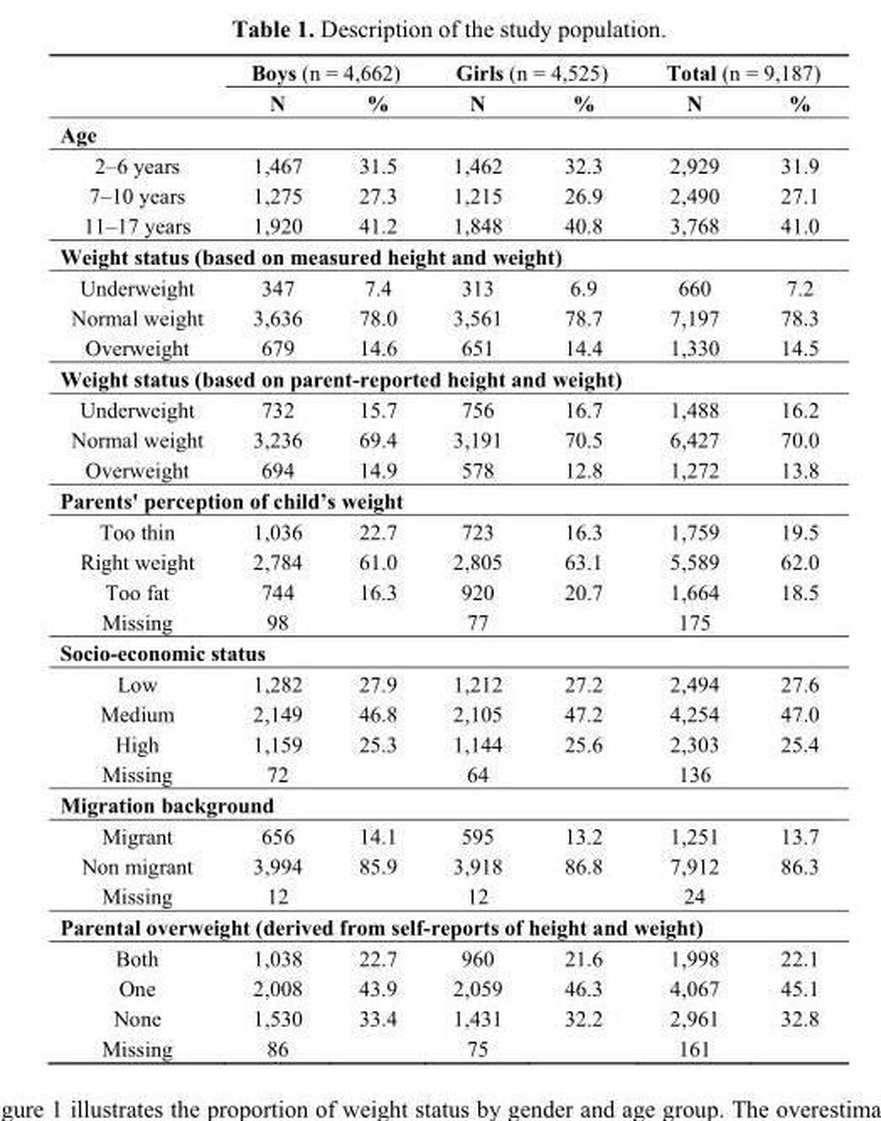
<table><thead><tr><td rowspan="2"></td><td colspan="2">Boys (n = 4,662)</td><td colspan="2">Girls (n = 4,525)</td><td colspan="2">Total (n = 9,187)</td></tr><tr><td>N</td><td>%</td><td>N</td><td>%</td><td>N</td><td>%</td></tr></thead><tbody><tr><td colspan="7">Age</td></tr><tr><td>2–6 years</td><td>1,467</td><td>31.5</td><td>1,462</td><td>32.3</td><td>2,929</td><td>31.9</td></tr><tr><td>7–10 years</td><td>1,275</td><td>27.3</td><td>1,215</td><td>26.9</td><td>2,490</td><td>27.1</td></tr><tr><td>11–17 years</td><td>1,920</td><td>41.2</td><td>1,848</td><td>40.8</td><td>3,768</td><td>41.0</td></tr><tr><td colspan="7">Weight status (based on measured height and weight)</td></tr><tr><td>Underweight</td><td>347</td><td>7.4</td><td>313</td><td>6.9</td><td>660</td><td>7.2</td></tr><tr><td>Normal weight</td><td>3,636</td><td>78.0</td><td>3,561</td><td>78.7</td><td>7,197</td><td>78.3</td></tr><tr><td>Overweight</td><td>679</td><td>14.6</td><td>651</td><td>14.4</td><td>1,330</td><td>14.5</td></tr><tr><td colspan="7">Weight status (based on parent-reported height and weight)</td></tr><tr><td>Underweight</td><td>732</td><td>15.7</td><td>756</td><td>16.7</td><td>1,488</td><td>16.2</td></tr><tr><td>Normal weight</td><td>3,236</td><td>69.4</td><td>3,191</td><td>70.5</td><td>6,427</td><td>70.0</td></tr><tr><td>Overweight</td><td>694</td><td>14.9</td><td>578</td><td>12.8</td><td>1,272</td><td>13.8</td></tr><tr><td colspan="7">Parents&#x27; perception of child’s weight</td></tr><tr><td>Too thin</td><td>1,036</td><td>22.7</td><td>723</td><td>16.3</td><td>1,759</td><td>19.5</td></tr><tr><td>Right weight</td><td>2,784</td><td>61.0</td><td>2,805</td><td>63.1</td><td>5,589</td><td>62.0</td></tr><tr><td>Too fat</td><td>744</td><td>16.3</td><td>920</td><td>20.7</td><td>1,664</td><td>18.5</td></tr><tr><td>Missing</td><td>98</td><td></td><td>77</td><td></td><td>175</td><td></td></tr><tr><td colspan="7">Socio-economic status</td></tr><tr><td>Low</td><td>1,282</td><td>27.9</td><td>1,212</td><td>27.2</td><td>2,494</td><td>27.6</td></tr><tr><td>Medium</td><td>2,149</td><td>46.8</td><td>2,105</td><td>47.2</td><td>4,254</td><td>47.0</td></tr><tr><td>High</td><td>1,159</td><td>25.3</td><td>1,144</td><td>25.6</td><td>2,303</td><td>25.4</td></tr><tr><td>Missing</td><td>72</td><td></td><td>64</td><td></td><td>136</td><td></td></tr><tr><td colspan="7">Migration background</td></tr><tr><td>Migrant</td><td>656</td><td>14.1</td><td>595</td><td>13.2</td><td>1,251</td><td>13.7</td></tr><tr><td>Non migrant</td><td>3,994</td><td>85.9</td><td>3,918</td><td>86.8</td><td>7,912</td><td>86.3</td></tr><tr><td>Missing</td><td>12</td><td></td><td>12</td><td></td><td>24</td><td></td></tr><tr><td colspan="7">Parental overweight (derived from self-reports of height and weight)</td></tr><tr><td>Both</td><td>1,038</td><td>22.7</td><td>960</td><td>21.6</td><td>1,998</td><td>22.1</td></tr><tr><td>One</td><td>2,008</td><td>43.9</td><td>2,059</td><td>46.3</td><td>4,067</td><td>45.1</td></tr><tr><td>None</td><td>1,530</td><td>33.4</td><td>1,431</td><td>32.2</td><td>2,961</td><td>32.8</td></tr><tr><td>Missing</td><td>86</td><td></td><td>75</td><td></td><td>161</td><td></td></tr></tbody></table>